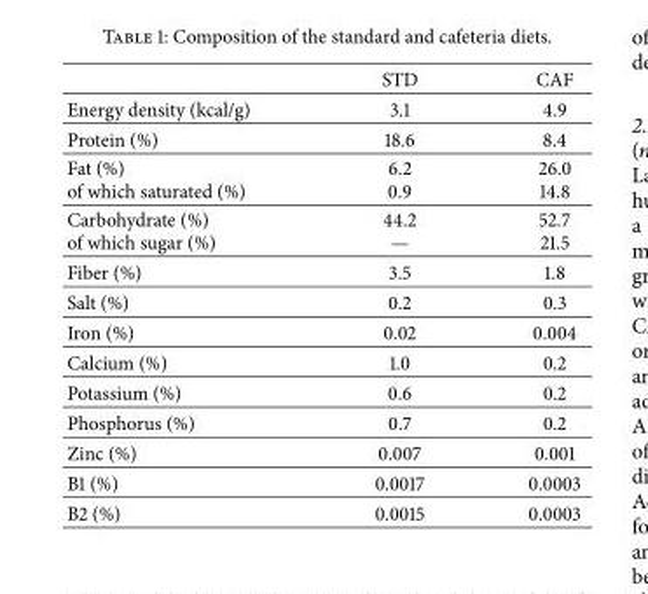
<table><thead><tr><td></td><td>STD</td><td>CAF</td></tr></thead><tbody><tr><td>Energy density (kcal/g)</td><td>3.1</td><td>4.9</td></tr><tr><td>Protein (%)</td><td>18.6</td><td>8.4</td></tr><tr><td>Fat (%) of which saturated (%)</td><td>6.2 0.9</td><td>26.0 14.8</td></tr><tr><td>Carbohydrate (%) of which sugar (%)</td><td>44.2 —</td><td>52.7 21.5</td></tr><tr><td>Fiber (%)</td><td>3.5</td><td>1.8</td></tr><tr><td>Salt (%)</td><td>0.2</td><td>0.3</td></tr><tr><td>Iron (%)</td><td>0.02</td><td>0.004</td></tr><tr><td>Calcium (%)</td><td>1.0</td><td>0.2</td></tr><tr><td>Potassium (%)</td><td>0.6</td><td>0.2</td></tr><tr><td>Phosphorus (%)</td><td>0.7</td><td>0.2</td></tr><tr><td>Zinc (%)</td><td>0.007</td><td>0.001</td></tr><tr><td>B1 (%)</td><td>0.0017</td><td>0.0003</td></tr><tr><td>B2 (%)</td><td>0.0015</td><td>0.0003</td></tr></tbody></table>